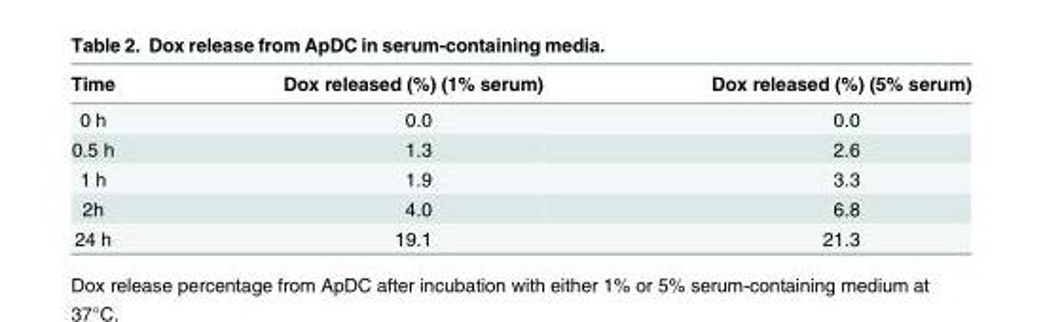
<table><thead><tr><td>Time</td><td>Dox released (%) (1% serum)</td><td>Dox released (%) (5% serum)</td></tr></thead><tbody><tr><td>0 h</td><td>0.0</td><td>0.0</td></tr><tr><td>0.5 h</td><td>1.3</td><td>2.6</td></tr><tr><td>1 h</td><td>1.9</td><td>3.3</td></tr><tr><td>2h</td><td>4.0</td><td>6.8</td></tr><tr><td>24 h</td><td>19.1</td><td>21.3</td></tr></tbody></table>